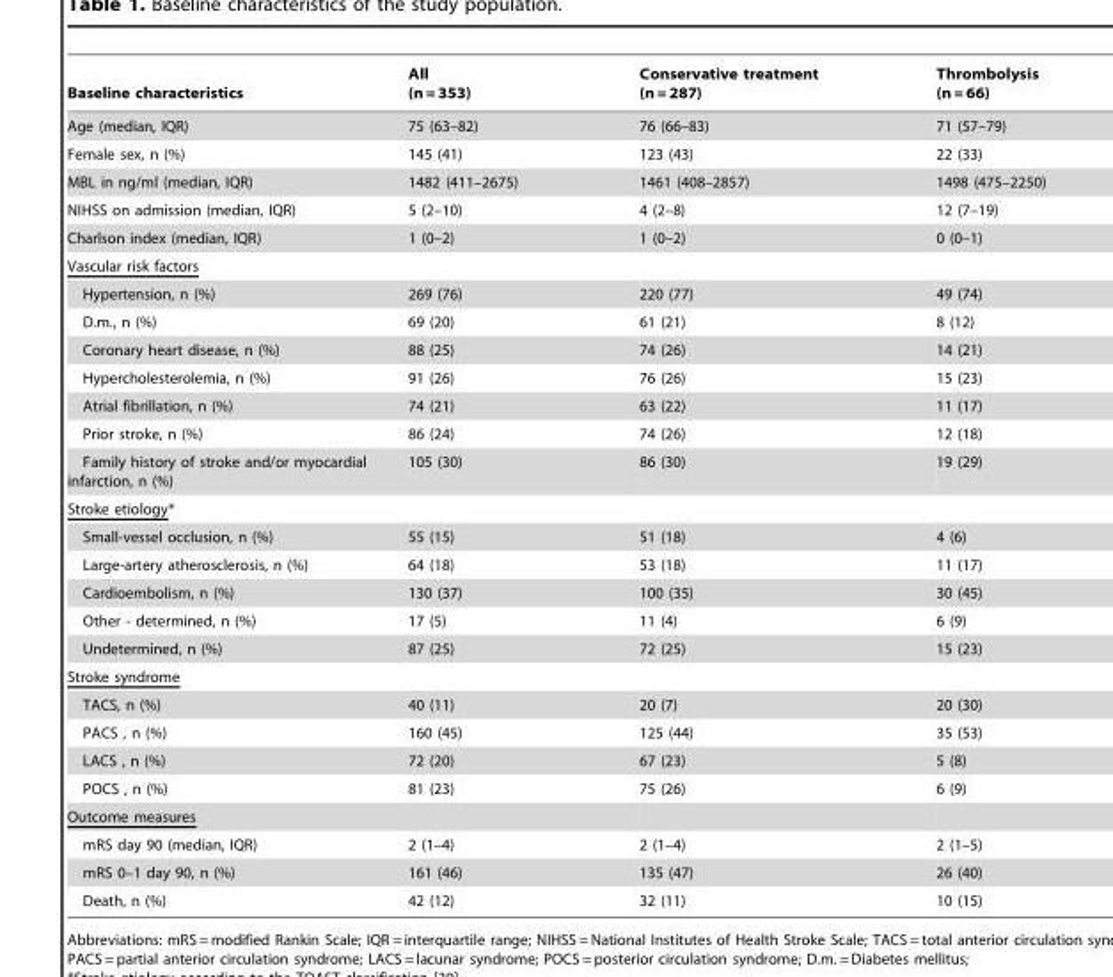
<table><thead><tr><td>Baseline characteristics</td><td>All (n = 353)</td><td>Conservative treatment (n = 287)</td><td>Thrombolysis (n = 66)</td></tr></thead><tbody><tr><td>Age (median, IQR)</td><td>75 (63–82)</td><td>76 (66–83)</td><td>71 (57–79)</td></tr><tr><td>Female sex, n (%)</td><td>145 (41)</td><td>123 (43)</td><td>22 (33)</td></tr><tr><td>MBL in ng/ml (median, IQR)</td><td>1482 (411–2675)</td><td>1461 (408–2857)</td><td>1498 (475–2250)</td></tr><tr><td>NIHSS on admission (median, IQR)</td><td>5 (2–10)</td><td>4 (2–8)</td><td>12 (7–19)</td></tr><tr><td>Charlson index (median, IQR)</td><td>1 (0–2)</td><td>1 (0–2)</td><td>0 (0–1)</td></tr><tr><td colspan="4">Vascular risk factors</td></tr><tr><td>Hypertension, n (%)</td><td>269 (76)</td><td>220 (77)</td><td>49 (74)</td></tr><tr><td>D.m., n (%)</td><td>69 (20)</td><td>61 (21)</td><td>8 (12)</td></tr><tr><td>Coronary heart disease, n (%)</td><td>88 (25)</td><td>74 (26)</td><td>14 (21)</td></tr><tr><td>Hypercholesterolemia, n (%)</td><td>91 (26)</td><td>76 (26)</td><td>15 (23)</td></tr><tr><td>Atrial fibrillation, n (%)</td><td>74 (21)</td><td>63 (22)</td><td>11 (17)</td></tr><tr><td>Prior stroke, n (%)</td><td>86 (24)</td><td>74 (26)</td><td>12 (18)</td></tr><tr><td>Family history of stroke and/or myocardial infarction, n (%)</td><td>105 (30)</td><td>86 (30)</td><td>19 (29)</td></tr><tr><td colspan="4">Stroke etiology*</td></tr><tr><td>Small-vessel occlusion, n (%)</td><td>55 (15)</td><td>51 (18)</td><td>4 (6)</td></tr><tr><td>Large-artery atherosclerosis, n (%)</td><td>64 (18)</td><td>53 (18)</td><td>11 (17)</td></tr><tr><td>Cardioembolism, n (%)</td><td>130 (37)</td><td>100 (35)</td><td>30 (45)</td></tr><tr><td>Other - determined, n (%)</td><td>17 (5)</td><td>11 (4)</td><td>6 (9)</td></tr><tr><td>Undetermined, n (%)</td><td>87 (25)</td><td>72 (25)</td><td>15 (23)</td></tr><tr><td colspan="4">Stroke syndrome</td></tr><tr><td>TACS, n (%)</td><td>40 (11)</td><td>20 (7)</td><td>20 (30)</td></tr><tr><td>PACS , n (%)</td><td>160 (45)</td><td>125 (44)</td><td>35 (53)</td></tr><tr><td>LACS , n (%)</td><td>72 (20)</td><td>67 (23)</td><td>5 (8)</td></tr><tr><td>POCS , n (%)</td><td>81 (23)</td><td>75 (26)</td><td>6 (9)</td></tr><tr><td colspan="4">Outcome measures</td></tr><tr><td>mRS day 90 (median, IQR)</td><td>2 (1–4)</td><td>2 (1–4)</td><td>2 (1–5)</td></tr><tr><td>mRS 0–1 day 90, n (%)</td><td>161 (46)</td><td>135 (47)</td><td>26 (40)</td></tr><tr><td>Death, n (%)</td><td>42 (12)</td><td>32 (11)</td><td>10 (15)</td></tr></tbody></table>